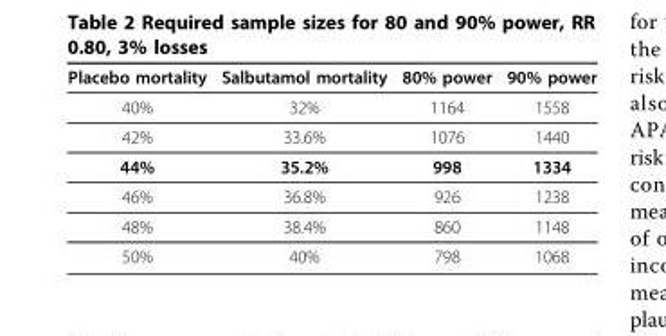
<table><thead><tr><td>Placebo mortality</td><td>Salbutamol mortality</td><td>80% power</td><td>90% power</td></tr></thead><tbody><tr><td>40%</td><td>32%</td><td>1164</td><td>1558</td></tr><tr><td>42%</td><td>33.6%</td><td>1076</td><td>1440</td></tr><tr><td>44%</td><td>35.2%</td><td>998</td><td>1334</td></tr><tr><td>46%</td><td>36.8%</td><td>926</td><td>1238</td></tr><tr><td>48%</td><td>38.4%</td><td>860</td><td>1148</td></tr><tr><td>50%</td><td>40%</td><td>798</td><td>1068</td></tr></tbody></table>